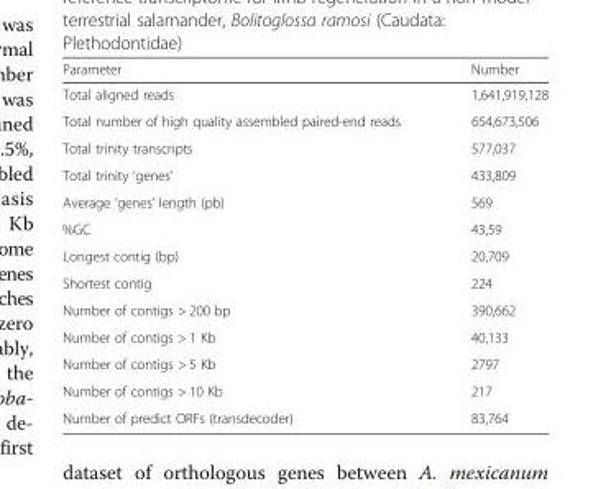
<table><thead><tr><td>Parameter</td><td>Number</td></tr></thead><tbody><tr><td>Total aligned reads</td><td>1,641,919,128</td></tr><tr><td>Total number of high quality assembled paired-end reads</td><td>654,673,506</td></tr><tr><td>Total trinity transcripts</td><td>577,037</td></tr><tr><td>Total trinity ‘genes’</td><td>433,809</td></tr><tr><td>Average ‘genes’ length (pb)</td><td>569</td></tr><tr><td>%GC</td><td>43,59</td></tr><tr><td>Longest contig (bp)</td><td>20,709</td></tr><tr><td>Shortest contig</td><td>224</td></tr><tr><td>Number of contigs &gt; 200 bp</td><td>390,662</td></tr><tr><td>Number of contigs &gt; 1 Kb</td><td>40,133</td></tr><tr><td>Number of contigs &gt; 5 Kb</td><td>2797</td></tr><tr><td>Number of contigs &gt; 10 Kb</td><td>217</td></tr><tr><td>Number of predict ORFs (transdecoder)</td><td>83,764</td></tr></tbody></table>